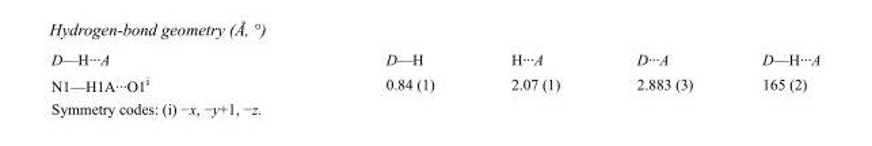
<table><tbody><tr><td>D—H···A</td><td>D—H</td><td>H···A</td><td>D···A</td><td>D—H···A</td></tr><tr><td>N1—H1A···O1<sup>i</sup></td><td>0.84 (1)</td><td>2.07 (1)</td><td>2.883 (3)</td><td>165 (2)</td></tr></tbody></table>